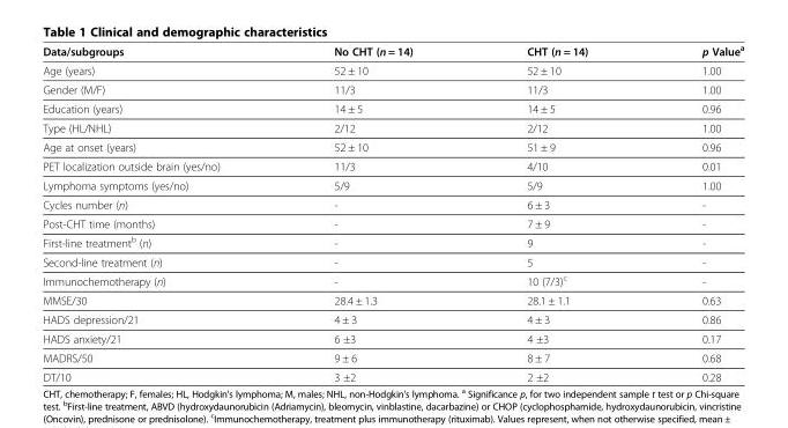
<table><thead><tr><td>Data/subgroups</td><td>No CHT (n = 14)</td><td>CHT (n = 14)</td><td>p Value<sup>a</sup></td></tr></thead><tbody><tr><td>Age (years)</td><td>52 ± 10</td><td>52 ± 10</td><td>1.00</td></tr><tr><td>Gender (M/F)</td><td>11/3</td><td>11/3</td><td>1.00</td></tr><tr><td>Education (years)</td><td>14 ± 5</td><td>14 ± 5</td><td>0.96</td></tr><tr><td>Type (HL/NHL)</td><td>2/12</td><td>2/12</td><td>1.00</td></tr><tr><td>Age at onset (years)</td><td>52 ± 10</td><td>51 ± 9</td><td>0.96</td></tr><tr><td>PET localization outside brain (yes/no)</td><td>11/3</td><td>4/10</td><td>0.01</td></tr><tr><td>Lymphoma symptoms (yes/no)</td><td>5/9</td><td>5/9</td><td>1.00</td></tr><tr><td>Cycles number (n)</td><td>-</td><td>6 ± 3</td><td>-</td></tr><tr><td>Post-CHT time (months)</td><td>-</td><td>7 ± 9</td><td>-</td></tr><tr><td>First-line treatment<sup>b</sup> (n)</td><td>-</td><td>9</td><td>-</td></tr><tr><td>Second-line treatment (n)</td><td>-</td><td>5</td><td>-</td></tr><tr><td>Immunochemotherapy (n)</td><td>-</td><td>10 (7/3)<sup>c</sup></td><td>-</td></tr><tr><td>MMSE/30</td><td>28.4 ± 1.3</td><td>28.1 ± 1.1</td><td>0.63</td></tr><tr><td>HADS depression/21</td><td>4 ± 3</td><td>4 ± 3</td><td>0.86</td></tr><tr><td>HADS anxiety/21</td><td>6 ±3</td><td>4 ±3</td><td>0.17</td></tr><tr><td>MADRS/50</td><td>9 ± 6</td><td>8 ± 7</td><td>0.68</td></tr><tr><td>DT/10</td><td>3 ±2</td><td>2 ±2</td><td>0.28</td></tr></tbody></table>